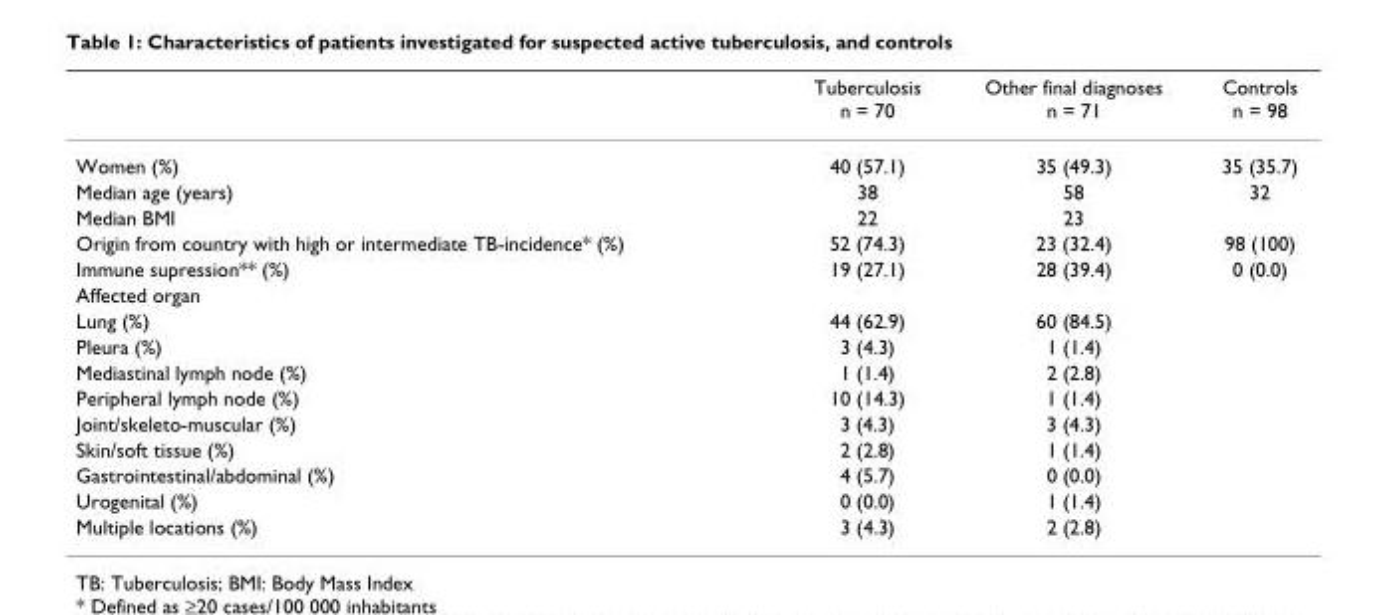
<table><thead><tr><td></td><td>Tuberculosis n = 70</td><td>Other final diagnoses n = 71</td><td>Controls n = 98</td></tr></thead><tbody><tr><td>Women (%)</td><td>40 (57.1)</td><td>35 (49.3)</td><td>35 (35.7)</td></tr><tr><td>Median age (years)</td><td>38</td><td>58</td><td>32</td></tr><tr><td>Median BMI</td><td>22</td><td>23</td><td></td></tr><tr><td>Origin from country with high or intermediate TB-incidence* (%)</td><td>52 (74.3)</td><td>23 (32.4)</td><td>98 (100)</td></tr><tr><td>Immune supression** (%)</td><td>19 (27.1)</td><td>28 (39.4)</td><td>0 (0.0)</td></tr><tr><td colspan="4">Affected organ</td></tr><tr><td>Lung (%)</td><td>44 (62.9)</td><td>60 (84.5)</td><td></td></tr><tr><td>Pleura (%)</td><td>3 (4.3)</td><td>1 (1.4)</td><td></td></tr><tr><td>Mediastinal lymph node (%)</td><td>1 (1.4)</td><td>2 (2.8)</td><td></td></tr><tr><td>Peripheral lymph node (%)</td><td>10 (14.3)</td><td>1 (1.4)</td><td></td></tr><tr><td>Joint/skeleto-muscular (%)</td><td>3 (4.3)</td><td>3 (4.3)</td><td></td></tr><tr><td>Skin/soft tissue (%)</td><td>2 (2.8)</td><td>1 (1.4)</td><td></td></tr><tr><td>Gastrointestinal/abdominal (%)</td><td>4 (5.7)</td><td>0 (0.0)</td><td></td></tr><tr><td>Urogenital (%)</td><td>0 (0.0)</td><td>1 (1.4)</td><td></td></tr><tr><td>Multiple locations (%)</td><td>3 (4.3)</td><td>2 (2.8)</td><td></td></tr></tbody></table>